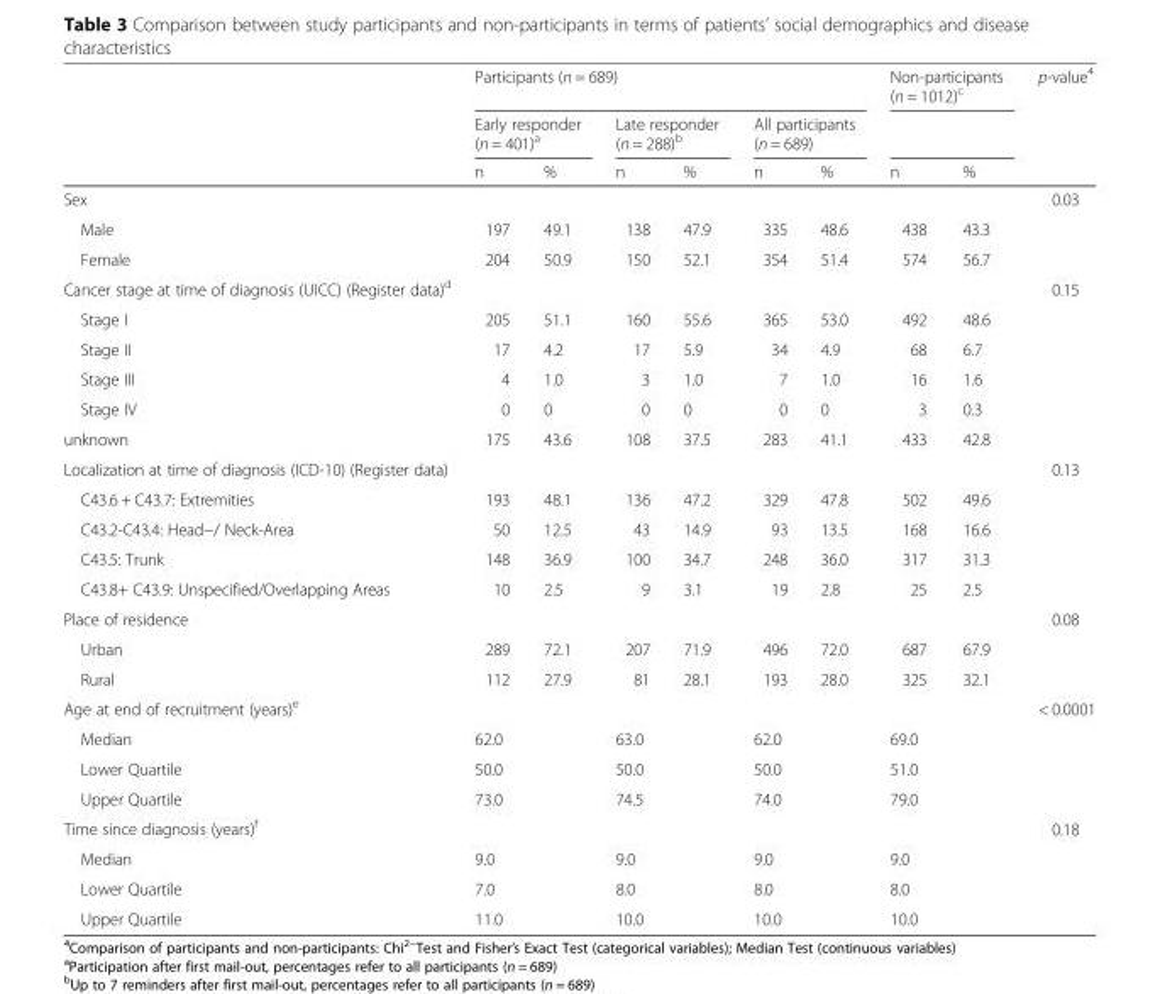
<table><thead><tr><td rowspan="3"></td><td colspan="6">Participants (n = 689)</td><td colspan="2">Non-participants (n = 1012)<sup>c</sup></td><td rowspan="3">p-value<sup>4</sup></td></tr><tr><td colspan="2">Early responder (n = 401)<sup>a</sup></td><td colspan="2">Late responder (n = 288)<sup>b</sup></td><td colspan="2">All participants (n = 689)</td><td rowspan="2">n</td><td rowspan="2">%</td></tr><tr><td>n</td><td>%</td><td>n</td><td>%</td><td>n</td><td>%</td></tr></thead><tbody><tr><td>Sex</td><td colspan="2"></td><td colspan="2"></td><td colspan="2"></td><td colspan="2"></td><td>0.03</td></tr><tr><td>Male</td><td>197</td><td>49.1</td><td>138</td><td>47.9</td><td>335</td><td>48.6</td><td>438</td><td>43.3</td><td></td></tr><tr><td>Female</td><td>204</td><td>50.9</td><td>150</td><td>52.1</td><td>354</td><td>51.4</td><td>574</td><td>56.7</td><td></td></tr><tr><td>Cancer stage at time of diagnosis (UICC) (Register data)<sup>d</sup></td><td colspan="2"></td><td colspan="2"></td><td colspan="2"></td><td colspan="2"></td><td>0.15</td></tr><tr><td>Stage I</td><td>205</td><td>51.1</td><td>160</td><td>55.6</td><td>365</td><td>53.0</td><td>492</td><td>48.6</td><td></td></tr><tr><td>Stage II</td><td>17</td><td>4.2</td><td>17</td><td>5.9</td><td>34</td><td>4.9</td><td>68</td><td>6.7</td><td></td></tr><tr><td>Stage III</td><td>4</td><td>1.0</td><td>3</td><td>1.0</td><td>7</td><td>1.0</td><td>16</td><td>1.6</td><td></td></tr><tr><td>Stage IV</td><td>0</td><td>0</td><td>0</td><td>0</td><td>0</td><td>0</td><td>3</td><td>0.3</td><td></td></tr><tr><td>unknown</td><td>175</td><td>43.6</td><td>108</td><td>37.5</td><td>283</td><td>41.1</td><td>433</td><td>42.8</td><td></td></tr><tr><td>Localization at time of diagnosis (ICD-10) (Register data)</td><td colspan="2"></td><td colspan="2"></td><td colspan="2"></td><td colspan="2"></td><td>0.13</td></tr><tr><td>C43.6 + C43.7: Extremities</td><td>193</td><td>48.1</td><td>136</td><td>47.2</td><td>329</td><td>47.8</td><td>502</td><td>49.6</td><td></td></tr><tr><td>C43.2-C43.4: Head−/ Neck-Area</td><td>50</td><td>12.5</td><td>43</td><td>14.9</td><td>93</td><td>13.5</td><td>168</td><td>16.6</td><td></td></tr><tr><td>C43.5: Trunk</td><td>148</td><td>36.9</td><td>100</td><td>34.7</td><td>248</td><td>36.0</td><td>317</td><td>31.3</td><td></td></tr><tr><td>C43.8+ C43.9: Unspecified/Overlapping Areas</td><td>10</td><td>2.5</td><td>9</td><td>3.1</td><td>19</td><td>2.8</td><td>25</td><td>2.5</td><td></td></tr><tr><td>Place of residence</td><td></td><td></td><td></td><td></td><td></td><td></td><td></td><td></td><td>0.08</td></tr><tr><td>Urban</td><td>289</td><td>72.1</td><td>207</td><td>71.9</td><td>496</td><td>72.0</td><td>687</td><td>67.9</td><td></td></tr><tr><td>Rural</td><td>112</td><td>27.9</td><td>81</td><td>28.1</td><td>193</td><td>28.0</td><td>325</td><td>32.1</td><td></td></tr><tr><td>Age at end of recruitment (years)<sup>e</sup></td><td colspan="2"></td><td colspan="2"></td><td colspan="2"></td><td colspan="2"></td><td>&lt; 0.0001</td></tr><tr><td>Median</td><td colspan="2">62.0</td><td colspan="2">63.0</td><td colspan="2">62.0</td><td colspan="2">69.0</td><td></td></tr><tr><td>Lower Quartile</td><td colspan="2">50.0</td><td colspan="2">50.0</td><td colspan="2">50.0</td><td colspan="2">51.0</td><td></td></tr><tr><td>Upper Quartile</td><td colspan="2">73.0</td><td colspan="2">74.5</td><td colspan="2">74.0</td><td colspan="2">79.0</td><td></td></tr><tr><td>Time since diagnosis (years)<sup>f</sup></td><td colspan="2"></td><td colspan="2"></td><td colspan="2"></td><td colspan="2"></td><td>0.18</td></tr><tr><td>Median</td><td colspan="2">9.0</td><td colspan="2">9.0</td><td colspan="2">9.0</td><td colspan="2">9.0</td><td></td></tr><tr><td>Lower Quartile</td><td colspan="2">7.0</td><td colspan="2">8.0</td><td colspan="2">8.0</td><td colspan="2">8.0</td><td></td></tr><tr><td>Upper Quartile</td><td colspan="2">11.0</td><td colspan="2">10.0</td><td colspan="2">10.0</td><td colspan="2">10.0</td><td></td></tr></tbody></table>